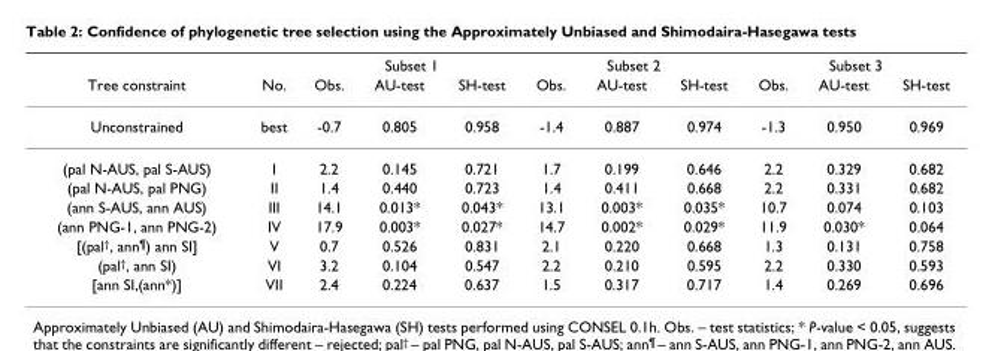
<table><thead><tr><td rowspan="2">Tree constraint</td><td rowspan="2">No.</td><td colspan="3">Subset 1</td><td colspan="3">Subset 2</td><td colspan="3">Subset 3</td></tr><tr><td>Obs.</td><td>AU-test</td><td>SH-test</td><td>Obs.</td><td>AU-test</td><td>SH-test</td><td>Obs.</td><td>AU-test</td><td>SH-test</td></tr></thead><tbody><tr><td>Unconstrained</td><td>best</td><td>-0.7</td><td>0.805</td><td>0.958</td><td>-1.4</td><td>0.887</td><td>0.974</td><td>-1.3</td><td>0.950</td><td>0.969</td></tr><tr><td>(pal N-AUS, pal S-AUS)</td><td>I</td><td>2.2</td><td>0.145</td><td>0.721</td><td>1.7</td><td>0.199</td><td>0.646</td><td>2.2</td><td>0.329</td><td>0.682</td></tr><tr><td>(pal N-AUS, pal PNG)</td><td>II</td><td>1.4</td><td>0.440</td><td>0.723</td><td>1.4</td><td>0.411</td><td>0.668</td><td>2.2</td><td>0.331</td><td>0.682</td></tr><tr><td>(ann S-AUS, ann AUS)</td><td>III</td><td>14.1</td><td>0.013*</td><td>0.043*</td><td>13.1</td><td>0.003*</td><td>0.035*</td><td>10.7</td><td>0.074</td><td>0.103</td></tr><tr><td>(ann PNG-1, ann PNG-2)</td><td>IV</td><td>17.9</td><td>0.003*</td><td>0.027*</td><td>14.7</td><td>0.002*</td><td>0.029*</td><td>11.9</td><td>0.030*</td><td>0.064</td></tr><tr><td>[(pal<sup>†</sup>, ann<sup>¶</sup>) ann SI]</td><td>V</td><td>0.7</td><td>0.526</td><td>0.831</td><td>2.1</td><td>0.220</td><td>0.668</td><td>1.3</td><td>0.131</td><td>0.758</td></tr><tr><td>(pal<sup>†</sup>, ann SI)</td><td>VI</td><td>3.2</td><td>0.104</td><td>0.547</td><td>2.2</td><td>0.210</td><td>0.595</td><td>2.2</td><td>0.330</td><td>0.593</td></tr><tr><td>[ann SI,(ann*)]</td><td>VII</td><td>2.4</td><td>0.224</td><td>0.637</td><td>1.5</td><td>0.317</td><td>0.717</td><td>1.4</td><td>0.269</td><td>0.696</td></tr></tbody></table>